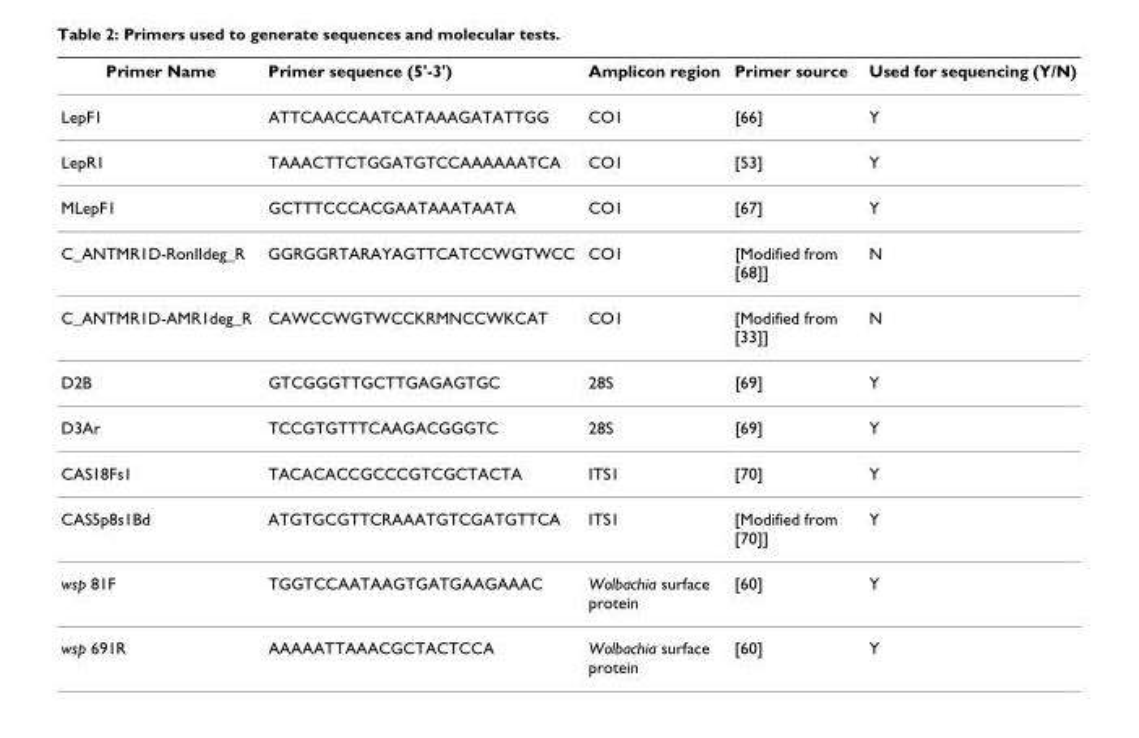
<table><thead><tr><td>Primer Name</td><td>Primer sequence (5&#x27;-3&#x27;)</td><td>Amplicon region</td><td>Primer source</td><td>Used for sequencing (Y/N)</td></tr></thead><tbody><tr><td>LepF1</td><td>ATTCAACCAATCATAAAGATATTGG</td><td>CO1</td><td>[66]</td><td>Y</td></tr><tr><td>LepR1</td><td>TAAACTTCTGGATGTCCAAAAAATCA</td><td>CO1</td><td>[53]</td><td>Y</td></tr><tr><td>MLepF1</td><td>GCTTTCCCACGAATAAATAATA</td><td>CO1</td><td>[67]</td><td>Y</td></tr><tr><td>C_ANTMR1D-RonIIdeg_R</td><td>GGRGGRTARAYAGTTCATCCWGTWCC</td><td>CO1</td><td>[Modified from [68]]</td><td>N</td></tr><tr><td>C_ANTMR1D-AMR1deg_R</td><td>CAWCCWGTWCCKRMNCCWKCAT</td><td>CO1</td><td>[Modified from [33]]</td><td>N</td></tr><tr><td>D2B</td><td>GTCGGGTTGCTTGAGAGTGC</td><td>28S</td><td>[69]</td><td>Y</td></tr><tr><td>D3Ar</td><td>TCCGTGTTTCAAGACGGGTC</td><td>28S</td><td>[69]</td><td>Y</td></tr><tr><td>CAS18Fs1</td><td>TACACACCGCCCGTCGCTACTA</td><td>ITS1</td><td>[70]</td><td>Y</td></tr><tr><td>CAS5p8s1Bd</td><td>ATGTGCGTTCRAAATGTCGATGTTCA</td><td>ITS1</td><td>[Modified from [70]]</td><td>Y</td></tr><tr><td>wsp 81F</td><td>TGGTCCAATAAGTGATGAAGAAAC</td><td>Wolbachia surface protein</td><td>[60]</td><td>Y</td></tr><tr><td>wsp 691R</td><td>AAAAATTAAACGCTACTCCA</td><td>Wolbachia surface protein</td><td>[60]</td><td>Y</td></tr></tbody></table>